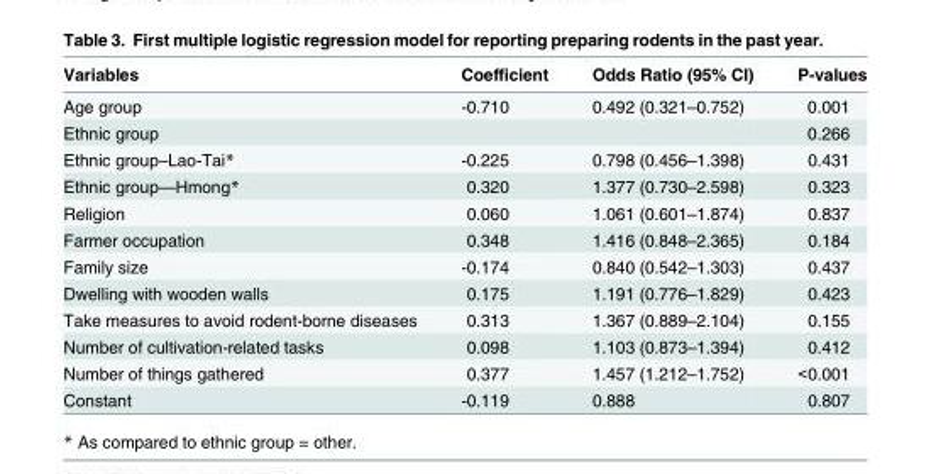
<table><thead><tr><td>Variables</td><td>Coefficient</td><td>Odds Ratio (95% CI)</td><td>P-values</td></tr></thead><tbody><tr><td>Age group</td><td>-0.710</td><td>0.492 (0.321–0.752)</td><td>0.001</td></tr><tr><td>Ethnic group</td><td></td><td></td><td>0.266</td></tr><tr><td>Ethnic group–Lao-Tai*</td><td>-0.225</td><td>0.798 (0.456–1.398)</td><td>0.431</td></tr><tr><td>Ethnic group—Hmong*</td><td>0.320</td><td>1.377 (0.730–2.598)</td><td>0.323</td></tr><tr><td>Religion</td><td>0.060</td><td>1.061 (0.601–1.874)</td><td>0.837</td></tr><tr><td>Farmer occupation</td><td>0.348</td><td>1.416 (0.848–2.365)</td><td>0.184</td></tr><tr><td>Family size</td><td>-0.174</td><td>0.840 (0.542–1.303)</td><td>0.437</td></tr><tr><td>Dwelling with wooden walls</td><td>0.175</td><td>1.191 (0.776–1.829)</td><td>0.423</td></tr><tr><td>Take measures to avoid rodent-borne diseases</td><td>0.313</td><td>1.367 (0.889–2.104)</td><td>0.155</td></tr><tr><td>Number of cultivation-related tasks</td><td>0.098</td><td>1.103 (0.873–1.394)</td><td>0.412</td></tr><tr><td>Number of things gathered</td><td>0.377</td><td>1.457 (1.212–1.752)</td><td>&lt;0.001</td></tr><tr><td>Constant</td><td>-0.119</td><td>0.888</td><td>0.807</td></tr></tbody></table>